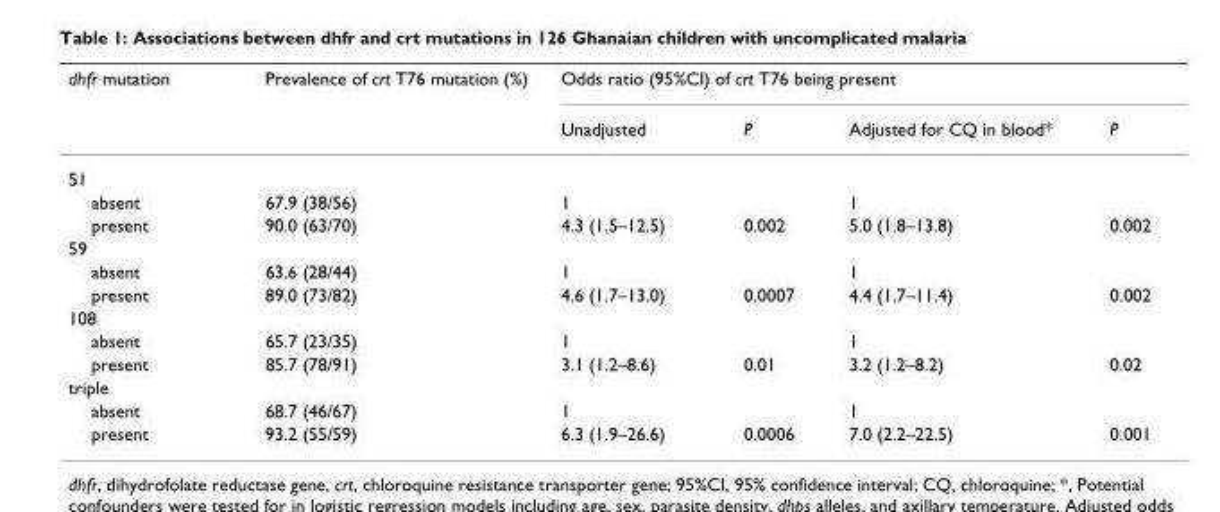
<table><thead><tr><td rowspan="2">dhfr mutation</td><td rowspan="2">Prevalence of crt T76 mutation (%)</td><td colspan="4">Odds ratio (95%CI) of crt T76 being present</td></tr><tr><td>Unadjusted</td><td>P</td><td>Adjusted for CQ in blood*</td><td>P</td></tr></thead><tbody><tr><td colspan="6">51</td></tr><tr><td>absent</td><td>67.9 (38/56)</td><td>1</td><td></td><td>1</td><td></td></tr><tr><td>present</td><td>90.0 (63/70)</td><td>4.3 (1.5–12.5)</td><td>0.002</td><td>5.0 (1.8–13.8)</td><td>0.002</td></tr><tr><td colspan="6">59</td></tr><tr><td>absent</td><td>63.6 (28/44)</td><td>1</td><td></td><td>1</td><td></td></tr><tr><td>present</td><td>89.0 (73/82)</td><td>4.6 (1.7–13.0)</td><td>0.0007</td><td>4.4 (1.7–11.4)</td><td>0.002</td></tr><tr><td colspan="6">108</td></tr><tr><td>absent</td><td>65.7 (23/35)</td><td>1</td><td></td><td>1</td><td></td></tr><tr><td>present</td><td>85.7 (78/91)</td><td>3.1 (1.2–8.6)</td><td>0.01</td><td>3.2 (1.2–8.2)</td><td>0.02</td></tr><tr><td colspan="6">triple</td></tr><tr><td>absent</td><td>68.7 (46/67)</td><td>1</td><td></td><td>1</td><td></td></tr><tr><td>present</td><td>93.2 (55/59)</td><td>6.3 (1.9–26.6)</td><td>0.0006</td><td>7.0 (2.2–22.5)</td><td>0.001</td></tr></tbody></table>